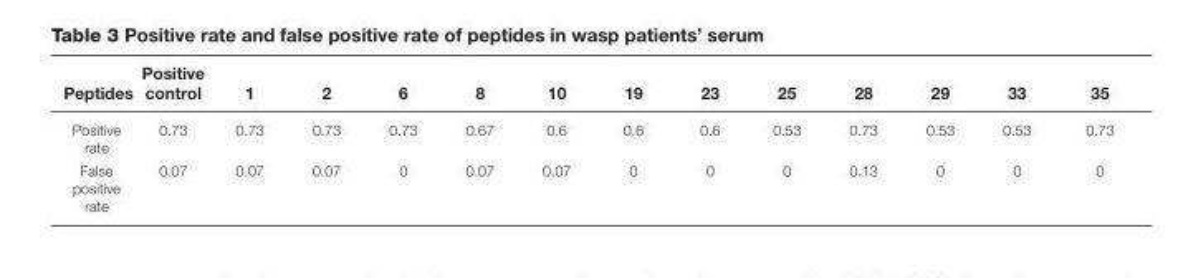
<table><thead><tr><td>Peptides</td><td>Positive control</td><td>1</td><td>2</td><td>6</td><td>8</td><td>10</td><td>19</td><td>23</td><td>25</td><td>28</td><td>29</td><td>33</td><td>35</td></tr></thead><tbody><tr><td>Positive rate</td><td>0.73</td><td>0.73</td><td>0.73</td><td>0.73</td><td>0.67</td><td>0.6</td><td>0.6</td><td>0.6</td><td>0.53</td><td>0.73</td><td>0.53</td><td>0.53</td><td>0.73</td></tr><tr><td>False positive rate</td><td>0.07</td><td>0.07</td><td>0.07</td><td>0</td><td>0.07</td><td>0.07</td><td>0</td><td>0</td><td>0</td><td>0.13</td><td>0</td><td>0</td><td>0</td></tr></tbody></table>